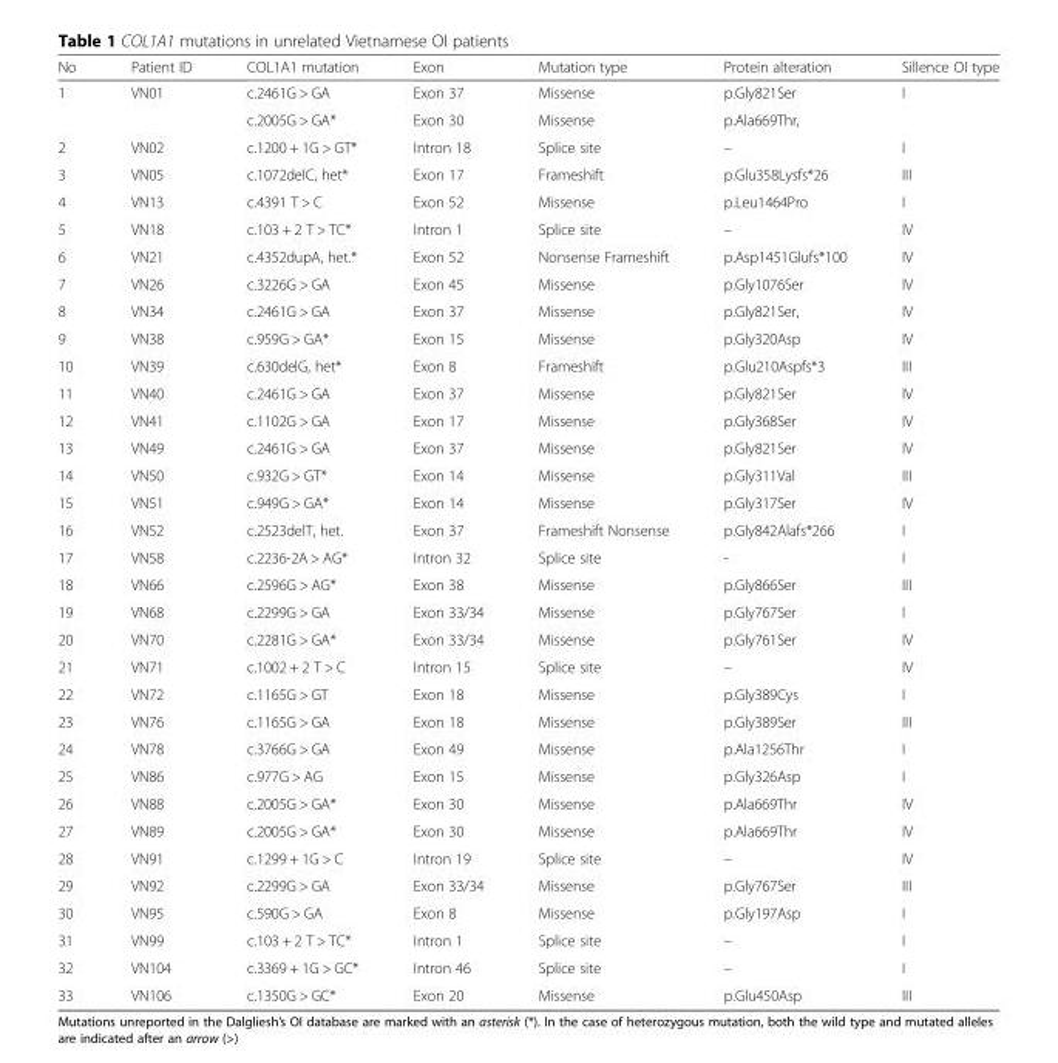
<table><thead><tr><td>No</td><td>Patient ID</td><td>COL1A1 mutation</td><td>Exon</td><td>Mutation type</td><td>Protein alteration</td><td>Sillence OI type</td></tr></thead><tbody><tr><td rowspan="2">1</td><td rowspan="2">VN01</td><td>c.2461G &gt; GA</td><td>Exon 37</td><td>Missense</td><td>p.Gly821Ser</td><td rowspan="2">I</td></tr><tr><td>c.2005G &gt; GA*</td><td>Exon 30</td><td>Missense</td><td>p.Ala669Thr,</td></tr><tr><td>2</td><td>VN02</td><td>c.1200 + 1G &gt; GT*</td><td>Intron 18</td><td>Splice site</td><td>–</td><td>I</td></tr><tr><td>3</td><td>VN05</td><td>c.1072delC, het*</td><td>Exon 17</td><td>Frameshift</td><td>p.Glu358Lysfs*26</td><td>III</td></tr><tr><td>4</td><td>VN13</td><td>c.4391 T &gt; C</td><td>Exon 52</td><td>Missense</td><td>p.Leu1464Pro</td><td>I</td></tr><tr><td>5</td><td>VN18</td><td>c.103 + 2 T &gt; TC*</td><td>Intron 1</td><td>Splice site</td><td>–</td><td>IV</td></tr><tr><td>6</td><td>VN21</td><td>c.4352dupA, het.*</td><td>Exon 52</td><td>Nonsense Frameshift</td><td>p.Asp1451Glufs*100</td><td>IV</td></tr><tr><td>7</td><td>VN26</td><td>c.3226G &gt; GA</td><td>Exon 45</td><td>Missense</td><td>p.Gly1076Ser</td><td>IV</td></tr><tr><td>8</td><td>VN34</td><td>c.2461G &gt; GA</td><td>Exon 37</td><td>Missense</td><td>p.Gly821Ser,</td><td>IV</td></tr><tr><td>9</td><td>VN38</td><td>c.959G &gt; GA*</td><td>Exon 15</td><td>Missense</td><td>p.Gly320Asp</td><td>IV</td></tr><tr><td>10</td><td>VN39</td><td>c.630delG, het*</td><td>Exon 8</td><td>Frameshift</td><td>p.Glu210Aspfs*3</td><td>III</td></tr><tr><td>11</td><td>VN40</td><td>c.2461G &gt; GA</td><td>Exon 37</td><td>Missense</td><td>p.Gly821Ser</td><td>IV</td></tr><tr><td>12</td><td>VN41</td><td>c.1102G &gt; GA</td><td>Exon 17</td><td>Missense</td><td>p.Gly368Ser</td><td>IV</td></tr><tr><td>13</td><td>VN49</td><td>c.2461G &gt; GA</td><td>Exon 37</td><td>Missense</td><td>p.Gly821Ser</td><td>IV</td></tr><tr><td>14</td><td>VN50</td><td>c.932G &gt; GT*</td><td>Exon 14</td><td>Missense</td><td>p.Gly311Val</td><td>III</td></tr><tr><td>15</td><td>VN51</td><td>c.949G &gt; GA*</td><td>Exon 14</td><td>Missense</td><td>p.Gly317Ser</td><td>IV</td></tr><tr><td>16</td><td>VN52</td><td>c.2523delT, het.</td><td>Exon 37</td><td>Frameshift Nonsense</td><td>p.Gly842Alafs*266</td><td>I</td></tr><tr><td>17</td><td>VN58</td><td>c.2236-2A &gt; AG*</td><td>Intron 32</td><td>Splice site</td><td>-</td><td>I</td></tr><tr><td>18</td><td>VN66</td><td>c.2596G &gt; AG*</td><td>Exon 38</td><td>Missense</td><td>p.Gly866Ser</td><td>III</td></tr><tr><td>19</td><td>VN68</td><td>c.2299G &gt; GA</td><td>Exon 33/34</td><td>Missense</td><td>p.Gly767Ser</td><td>I</td></tr><tr><td>20</td><td>VN70</td><td>c.2281G &gt; GA*</td><td>Exon 33/34</td><td>Missense</td><td>p.Gly761Ser</td><td>IV</td></tr><tr><td>21</td><td>VN71</td><td>c.1002 + 2 T &gt; C</td><td>Intron 15</td><td>Splice site</td><td>–</td><td>IV</td></tr><tr><td>22</td><td>VN72</td><td>c.1165G &gt; GT</td><td>Exon 18</td><td>Missense</td><td>p.Gly389Cys</td><td>I</td></tr><tr><td>23</td><td>VN76</td><td>c.1165G &gt; GA</td><td>Exon 18</td><td>Missense</td><td>p.Gly389Ser</td><td>III</td></tr><tr><td>24</td><td>VN78</td><td>c.3766G &gt; GA</td><td>Exon 49</td><td>Missense</td><td>p.Ala1256Thr</td><td>I</td></tr><tr><td>25</td><td>VN86</td><td>c.977G &gt; AG</td><td>Exon 15</td><td>Missense</td><td>p.Gly326Asp</td><td>I</td></tr><tr><td>26</td><td>VN88</td><td>c.2005G &gt; GA*</td><td>Exon 30</td><td>Missense</td><td>p.Ala669Thr</td><td>IV</td></tr><tr><td>27</td><td>VN89</td><td>c.2005G &gt; GA*</td><td>Exon 30</td><td>Missense</td><td>p.Ala669Thr</td><td>IV</td></tr><tr><td>28</td><td>VN91</td><td>c.1299 + 1G &gt; C</td><td>Intron 19</td><td>Splice site</td><td>–</td><td>IV</td></tr><tr><td>29</td><td>VN92</td><td>c.2299G &gt; GA</td><td>Exon 33/34</td><td>Missense</td><td>p.Gly767Ser</td><td>III</td></tr><tr><td>30</td><td>VN95</td><td>c.590G &gt; GA</td><td>Exon 8</td><td>Missense</td><td>p.Gly197Asp</td><td>I</td></tr><tr><td>31</td><td>VN99</td><td>c.103 + 2 T &gt; TC*</td><td>Intron 1</td><td>Splice site</td><td>–</td><td>I</td></tr><tr><td>32</td><td>VN104</td><td>c.3369 + 1G &gt; GC*</td><td>Intron 46</td><td>Splice site</td><td>–</td><td>I</td></tr><tr><td>33</td><td>VN106</td><td>c.1350G &gt; GC*</td><td>Exon 20</td><td>Missense</td><td>p.Glu450Asp</td><td>III</td></tr></tbody></table>